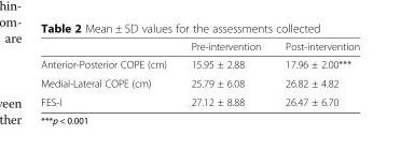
<table><thead><tr><td></td><td>Pre-intervention</td><td>Post-intervention</td></tr></thead><tbody><tr><td>Anterior-Posterior COPE (cm)</td><td>15.95 ± 2.88</td><td>17.96 ± 2.00***</td></tr><tr><td>Medial-Lateral COPE (cm)</td><td>25.79 ± 6.08</td><td>26.82 ± 4.82</td></tr><tr><td>FES-I</td><td>27.12 ± 8.88</td><td>26.47 ± 6.70</td></tr></tbody></table>